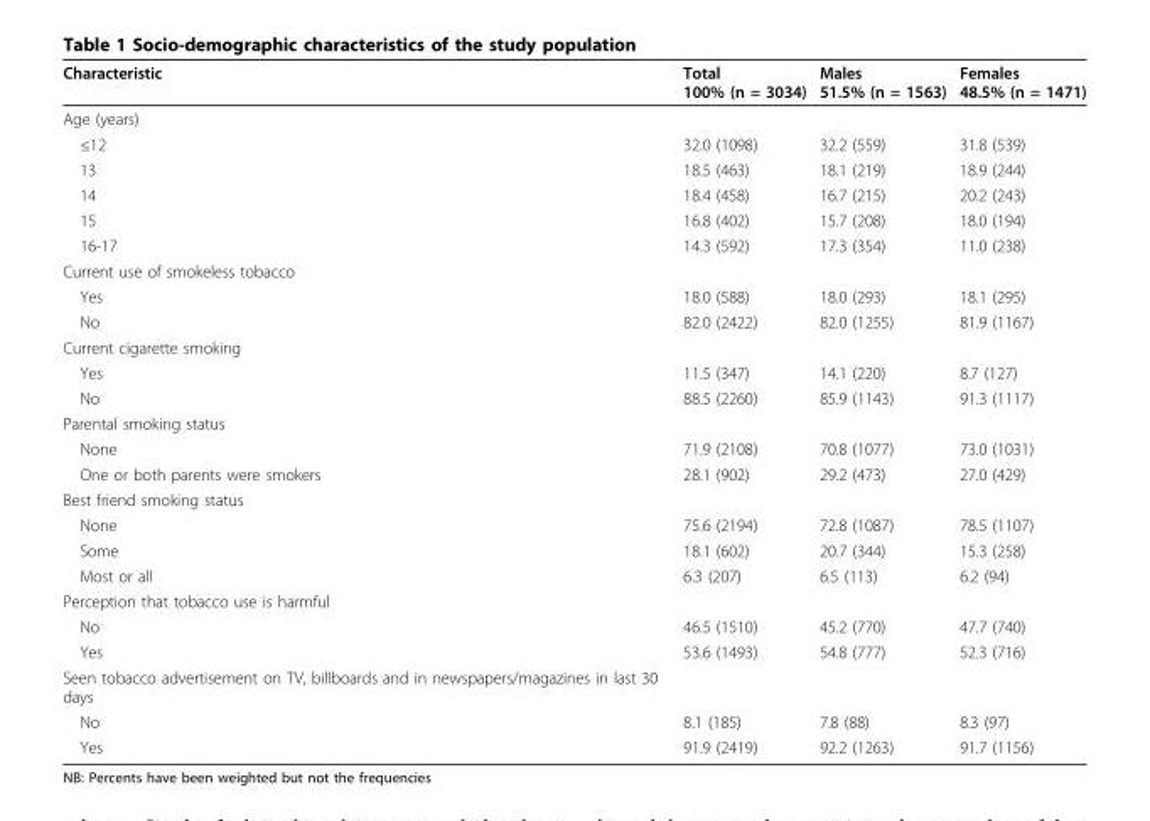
<table><thead><tr><td>Characteristic</td><td>Total 100% (n = 3034)</td><td>Males 51.5% (n = 1563)</td><td>Females 48.5% (n = 1471)</td></tr></thead><tbody><tr><td colspan="4">Age (years)</td></tr><tr><td>≤12</td><td>32.0 (1098)</td><td>32.2 (559)</td><td>31.8 (539)</td></tr><tr><td>13</td><td>18.5 (463)</td><td>18.1 (219)</td><td>18.9 (244)</td></tr><tr><td>14</td><td>18.4 (458)</td><td>16.7 (215)</td><td>20.2 (243)</td></tr><tr><td>15</td><td>16.8 (402)</td><td>15.7 (208)</td><td>18.0 (194)</td></tr><tr><td>16-17</td><td>14.3 (592)</td><td>17.3 (354)</td><td>11.0 (238)</td></tr><tr><td colspan="4">Current use of smokeless tobacco</td></tr><tr><td>Yes</td><td>18.0 (588)</td><td>18.0 (293)</td><td>18.1 (295)</td></tr><tr><td>No</td><td>82.0 (2422)</td><td>82.0 (1255)</td><td>81.9 (1167)</td></tr><tr><td colspan="4">Current cigarette smoking</td></tr><tr><td>Yes</td><td>11.5 (347)</td><td>14.1 (220)</td><td>8.7 (127)</td></tr><tr><td>No</td><td>88.5 (2260)</td><td>85.9 (1143)</td><td>91.3 (1117)</td></tr><tr><td colspan="4">Parental smoking status</td></tr><tr><td>None</td><td>71.9 (2108)</td><td>70.8 (1077)</td><td>73.0 (1031)</td></tr><tr><td>One or both parents were smokers</td><td>28.1 (902)</td><td>29.2 (473)</td><td>27.0 (429)</td></tr><tr><td colspan="4">Best friend smoking status</td></tr><tr><td>None</td><td>75.6 (2194)</td><td>72.8 (1087)</td><td>78.5 (1107)</td></tr><tr><td>Some</td><td>18.1 (602)</td><td>20.7 (344)</td><td>15.3 (258)</td></tr><tr><td>Most or all</td><td>6.3 (207)</td><td>6.5 (113)</td><td>6.2 (94)</td></tr><tr><td colspan="4">Perception that tobacco use is harmful</td></tr><tr><td>No</td><td>46.5 (1510)</td><td>45.2 (770)</td><td>47.7 (740)</td></tr><tr><td>Yes</td><td>53.6 (1493)</td><td>54.8 (777)</td><td>52.3 (716)</td></tr><tr><td colspan="4">Seen tobacco advertisement on TV, billboards and in newspapers/magazines in last 30 days</td></tr><tr><td>No</td><td>8.1 (185)</td><td>7.8 (88)</td><td>8.3 (97)</td></tr><tr><td>Yes</td><td>91.9 (2419)</td><td>92.2 (1263)</td><td>91.7 (1156)</td></tr></tbody></table>